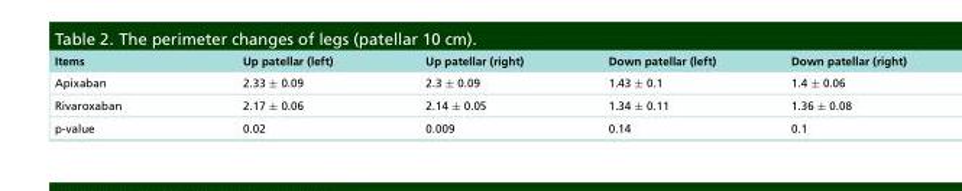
<table><thead><tr><td>Items</td><td>Up patellar (left)</td><td>Up patellar (right)</td><td>Down patellar (left)</td><td>Down patellar (right)</td></tr></thead><tbody><tr><td>Apixaban</td><td>2.33 ± 0.09</td><td>2.3 ± 0.09</td><td>1.43 ± 0.1</td><td>1.4 ± 0.06</td></tr><tr><td>Rivaroxaban</td><td>2.17 ± 0.06</td><td>2.14 ± 0.05</td><td>1.34 ± 0.11</td><td>1.36 ± 0.08</td></tr><tr><td>p-value</td><td>0.02</td><td>0.009</td><td>0.14</td><td>0.1</td></tr></tbody></table>